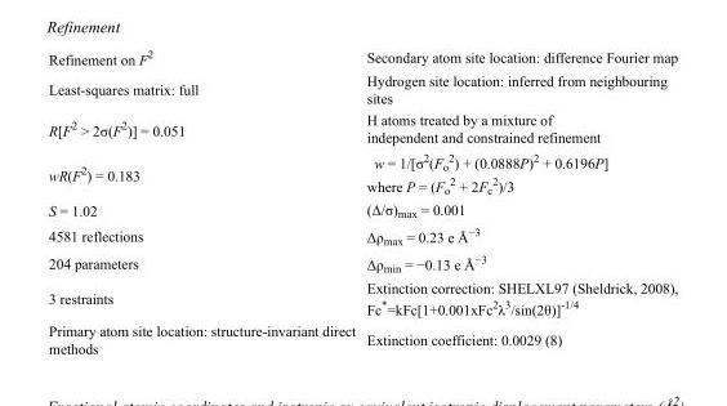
<table><tbody><tr><td>Refinement on F<sup>2</sup></td><td>Secondary atom site location: difference Fourier map</td></tr><tr><td>Least-squares matrix: full</td><td>Hydrogen site location: inferred from neighbouring sites</td></tr><tr><td>R[F<sup>2</sup> &gt; 2σ(F<sup>2</sup>)] = 0.051</td><td>H atoms treated by a mixture of independent and constrained refinement</td></tr><tr><td>wR(F<sup>2</sup>) = 0.183</td><td>w = 1/[σ<sup>2</sup>(F<sub>o</sub> <sup>2</sup>) + (0.0888P)<sup>2</sup> + 0.6196P] where P = (F<sub>o</sub> <sup>2</sup> + 2F<sub>c</sub> <sup>2</sup>)/3</td></tr><tr><td>S = 1.02</td><td>(Δ/σ)<sub>max</sub> = 0.001</td></tr><tr><td>4581 reflections</td><td>Δρ<sub>max</sub> = 0.23 e Å<sup>−3</sup></td></tr><tr><td>204 parameters</td><td>Δρ<sub>min</sub> = −0.13 e Å<sup>−3</sup></td></tr><tr><td>3 restraints</td><td>Extinction correction: SHELXL97 (Sheldrick, 2008), Fc*=kFc[1+0.001xFc<sup>2</sup>λ<sup>3</sup>/sin(2θ)]<sup>-1/4</sup></td></tr><tr><td>Primary atom site location: structure-invariant direct methods</td><td>Extinction coefficient: 0.0029 (8)</td></tr></tbody></table>